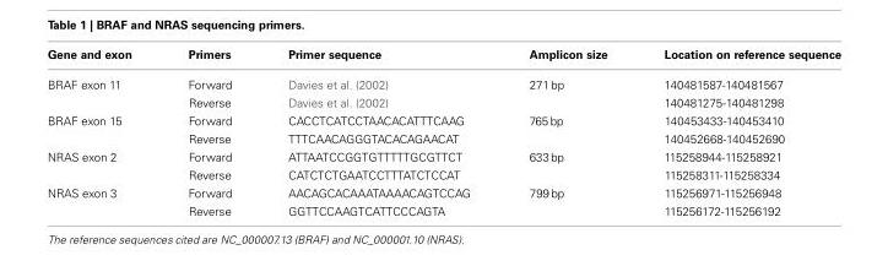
<table><thead><tr><td>Gene and exon</td><td>Primers</td><td>Primer sequence</td><td>Amplicon size</td><td>Location on reference sequence</td></tr></thead><tbody><tr><td rowspan="2">BRAF exon 11</td><td>Forward</td><td>Davies et al. (2002)</td><td>271 bp</td><td>140481587-140481567</td></tr><tr><td>Reverse</td><td>Davies et al. (2002)</td><td></td><td>140481275-140481298</td></tr><tr><td rowspan="2">BRAF exon 15</td><td>Forward</td><td>CACCTCATCCTAACACATTTCAAG</td><td>765 bp</td><td>140453433-140453410</td></tr><tr><td>Reverse</td><td>TTTCAACAGGGTACACAGAACAT</td><td></td><td>140452668-140452690</td></tr><tr><td rowspan="2">NRAS exon 2</td><td>Forward</td><td>ATTAATCCGGTGTTTTTGCGTTCT</td><td>633 bp</td><td>115258944-115258921</td></tr><tr><td>Reverse</td><td>CATCTCTGAATCCTTTATCTCCAT</td><td></td><td>115258311-115258334</td></tr><tr><td rowspan="2">NRAS exon 3</td><td>Forward</td><td>AACAGCACAAATAAAACAGTCCAG</td><td>799 bp</td><td>115256971-115256948</td></tr><tr><td>Reverse</td><td>GGTTCCAAGTCATTCCCAGTA</td><td></td><td>115256172-115256192</td></tr></tbody></table>